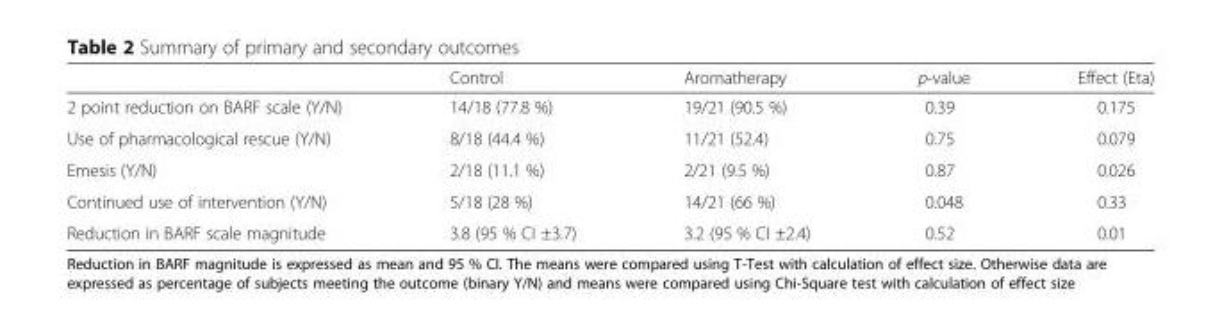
<table><thead><tr><td></td><td>Control</td><td>Aromatherapy</td><td>p-value</td><td>Effect (Eta)</td></tr></thead><tbody><tr><td>2 point reduction on BARF scale (Y/N)</td><td>14/18 (77.8 %)</td><td>19/21 (90.5 %)</td><td>0.39</td><td>0.175</td></tr><tr><td>Use of pharmacological rescue (Y/N)</td><td>8/18 (44.4 %)</td><td>11/21 (52.4)</td><td>0.75</td><td>0.079</td></tr><tr><td>Emesis (Y/N)</td><td>2/18 (11.1 %)</td><td>2/21 (9.5 %)</td><td>0.87</td><td>0.026</td></tr><tr><td>Continued use of intervention (Y/N)</td><td>5/18 (28 %)</td><td>14/21 (66 %)</td><td>0.048</td><td>0.33</td></tr><tr><td>Reduction in BARF scale magnitude</td><td>3.8 (95 % CI ±3.7)</td><td>3.2 (95 % CI ±2.4)</td><td>0.52</td><td>0.01</td></tr></tbody></table>